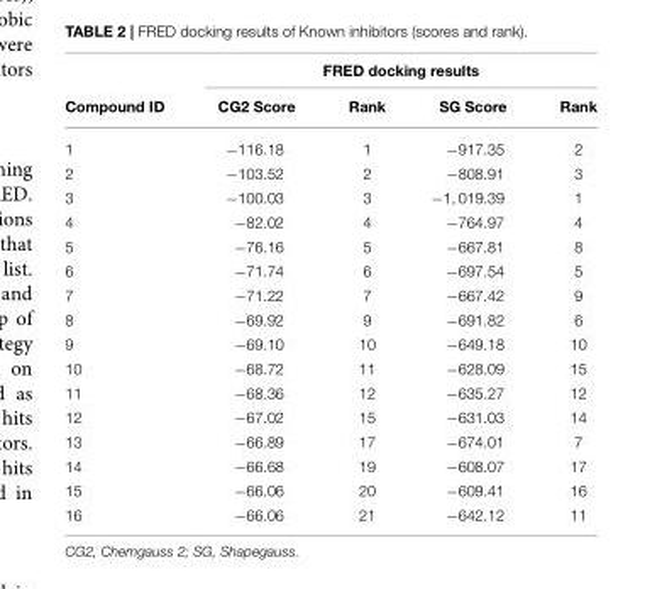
<table><thead><tr><td rowspan="2">Compound ID</td><td colspan="4">FRED docking results</td></tr><tr><td>CG2 Score</td><td>Rank</td><td>SG Score</td><td>Rank</td></tr></thead><tbody><tr><td>1</td><td>−116.18</td><td>1</td><td>−917.35</td><td>2</td></tr><tr><td>2</td><td>−103.52</td><td>2</td><td>−808.91</td><td>3</td></tr><tr><td>3</td><td>−100.03</td><td>3</td><td>−1, 019.39</td><td>1</td></tr><tr><td>4</td><td>−82.02</td><td>4</td><td>−764.97</td><td>4</td></tr><tr><td>5</td><td>−76.16</td><td>5</td><td>−667.81</td><td>8</td></tr><tr><td>6</td><td>−71.74</td><td>6</td><td>−697.54</td><td>5</td></tr><tr><td>7</td><td>−71.22</td><td>7</td><td>−667.42</td><td>9</td></tr><tr><td>8</td><td>−69.92</td><td>9</td><td>−691.82</td><td>6</td></tr><tr><td>9</td><td>−69.10</td><td>10</td><td>−649.18</td><td>10</td></tr><tr><td>10</td><td>−68.72</td><td>11</td><td>−628.09</td><td>15</td></tr><tr><td>11</td><td>−68.36</td><td>12</td><td>−635.27</td><td>12</td></tr><tr><td>12</td><td>−67.02</td><td>15</td><td>−631.03</td><td>14</td></tr><tr><td>13</td><td>−66.89</td><td>17</td><td>−674.01</td><td>7</td></tr><tr><td>14</td><td>−66.68</td><td>19</td><td>−608.07</td><td>17</td></tr><tr><td>15</td><td>−66.06</td><td>20</td><td>−609.41</td><td>16</td></tr><tr><td>16</td><td>−66.06</td><td>21</td><td>−642.12</td><td>11</td></tr></tbody></table>